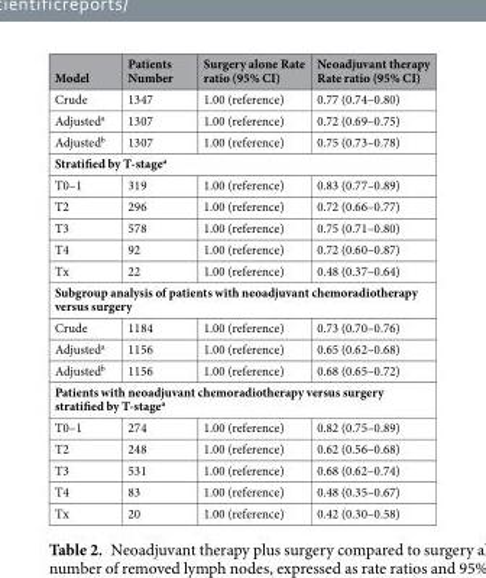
<table><thead><tr><td>Model</td><td>Patients Number</td><td>Surgery alone Rate ratio (95% CI)</td><td>Neoadjuvant therapy Rate ratio (95% CI)</td></tr></thead><tbody><tr><td>Crude</td><td>1347</td><td>1.00 (reference)</td><td>0.77 (0.74–0.80)</td></tr><tr><td>Adjusted<sup>a</sup></td><td>1307</td><td>1.00 (reference)</td><td>0.72 (0.69–0.75)</td></tr><tr><td>Adjusted<sup>b</sup></td><td>1307</td><td>1.00 (reference)</td><td>0.75 (0.73–0.78)</td></tr><tr><td colspan="4">Stratified by T-stage<sup>a</sup></td></tr><tr><td>T0–1</td><td>319</td><td>1.00 (reference)</td><td>0.83 (0.77–0.89)</td></tr><tr><td>T2</td><td>296</td><td>1.00 (reference)</td><td>0.72 (0.66–0.77)</td></tr><tr><td>T3</td><td>578</td><td>1.00 (reference)</td><td>0.75 (0.71–0.80)</td></tr><tr><td>T4</td><td>92</td><td>1.00 (reference)</td><td>0.72 (0.60–0.87)</td></tr><tr><td>Tx</td><td>22</td><td>1.00 (reference)</td><td>0.48 (0.37–0.64)</td></tr><tr><td colspan="4">Subgroup analysis of patients with neoadjuvant chemoradiotherapy versus surgery</td></tr><tr><td>Crude</td><td>1184</td><td>1.00 (reference)</td><td>0.73 (0.70–0.76)</td></tr><tr><td>Adjusted<sup>a</sup></td><td>1156</td><td>1.00 (reference)</td><td>0.65 (0.62–0.68)</td></tr><tr><td>Adjusted<sup>b</sup></td><td>1156</td><td>1.00 (reference)</td><td>0.68 (0.65–0.72)</td></tr><tr><td colspan="4">Patients with neoadjuvant chemoradiotherapy versus surgery stratified by T-stage<sup>a</sup></td></tr><tr><td>T0–1</td><td>274</td><td>1.00 (reference)</td><td>0.82 (0.75–0.89)</td></tr><tr><td>T2</td><td>248</td><td>1.00 (reference)</td><td>0.62 (0.56–0.68)</td></tr><tr><td>T3</td><td>531</td><td>1.00 (reference)</td><td>0.68 (0.62–0.74)</td></tr><tr><td>T4</td><td>83</td><td>1.00 (reference)</td><td>0.48 (0.35–0.67)</td></tr><tr><td>Tx</td><td>20</td><td>1.00 (reference)</td><td>0.42 (0.30–0.58)</td></tr></tbody></table>